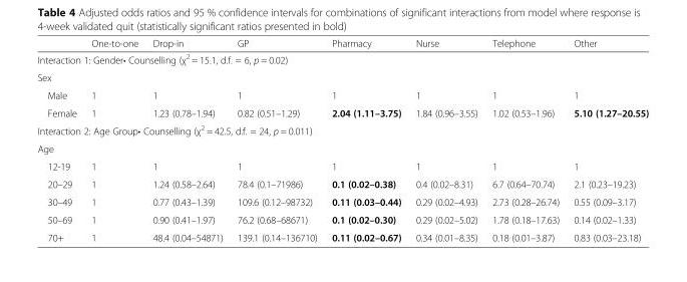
<table><thead><tr><td></td><td>One-to-one</td><td>Drop-in</td><td>GP</td><td>Pharmacy</td><td>Nurse</td><td>Telephone</td><td>Other</td></tr></thead><tbody><tr><td colspan="8">Interaction 1: Gender• Counselling (χ<sup>2</sup> = 15.1, d.f. = 6, p = 0.02)</td></tr><tr><td colspan="8">Sex</td></tr><tr><td>Male</td><td>1</td><td>1</td><td>1</td><td>1</td><td>1</td><td>1</td><td>1</td></tr><tr><td>Female</td><td>1</td><td>1.23 (0.78–1.94)</td><td>0.82 (0.51–1.29)</td><td>2.04 (1.11–3.75)</td><td>1.84 (0.96–3.55)</td><td>1.02 (0.53–1.96)</td><td>5.10 (1.27–20.55)</td></tr><tr><td colspan="8">Interaction 2: Age Group• Counselling (χ<sup>2</sup> = 42.5, d.f. = 24, p = 0.011)</td></tr><tr><td colspan="8">Age</td></tr><tr><td>12-19</td><td>1</td><td>1</td><td>1</td><td>1</td><td>1</td><td>1</td><td>1</td></tr><tr><td>20–29</td><td>1</td><td>1.24 (0.58–2.64)</td><td>78.4 (0.1–71986)</td><td>0.1 (0.02–0.38)</td><td>0.4 (0.02–8.31)</td><td>6.7 (0.64–70.74)</td><td>2.1 (0.23–19.23)</td></tr><tr><td>30–49</td><td>1</td><td>0.77 (0.43–1.39)</td><td>109.6 (0.12–98732)</td><td>0.11 (0.03–0.44)</td><td>0.29 (0.02–4.93)</td><td>2.73 (0.28–26.74)</td><td>0.55 (0.09–3.17)</td></tr><tr><td>50–69</td><td>1</td><td>0.90 (0.41–1.97)</td><td>76.2 (0.68–68671)</td><td>0.1 (0.02–0.30)</td><td>0.29 (0.02–5.02)</td><td>1.78 (0.18–17.63)</td><td>0.14 (0.02–1.33)</td></tr><tr><td>70+</td><td>1</td><td>48.4 (0.04–54871)</td><td>139.1 (0.14–136710)</td><td>0.11 (0.02–0.67)</td><td>0.34 (0.01–8.35)</td><td>0.18 (0.01–3.87)</td><td>0.83 (0.03–23.18)</td></tr></tbody></table>